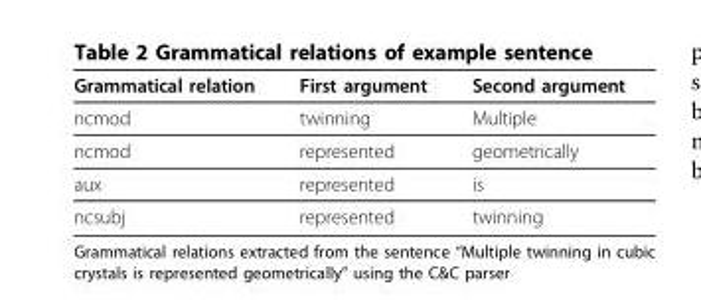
<table><thead><tr><td>Grammatical relation</td><td>First argument</td><td>Second argument</td></tr></thead><tbody><tr><td>ncmod</td><td>twinning</td><td>Multiple</td></tr><tr><td>ncmod</td><td>represented</td><td>geometrically</td></tr><tr><td>aux</td><td>represented</td><td>is</td></tr><tr><td>ncsubj</td><td>represented</td><td>twinning</td></tr></tbody></table>